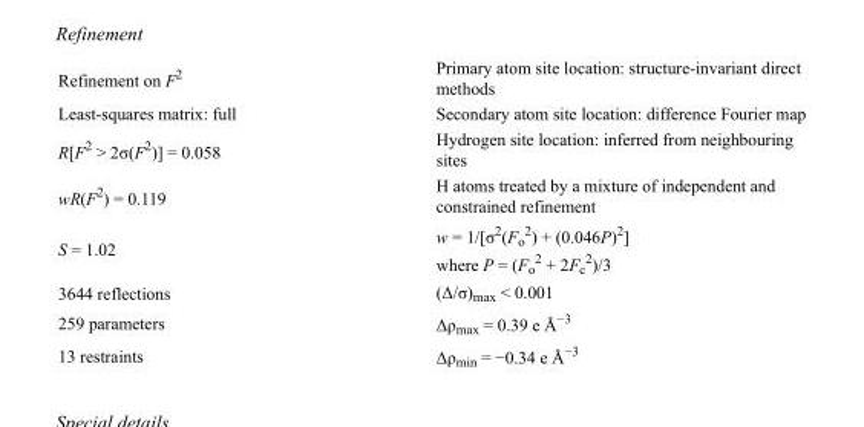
<table><tbody><tr><td>Refinement on F<sup>2</sup></td><td>Primary atom site location: structure-invariant direct methods</td></tr><tr><td>Least-squares matrix: full</td><td>Secondary atom site location: difference Fourier map</td></tr><tr><td>R[F<sup>2</sup> &gt; 2σ(F<sup>2</sup>)] = 0.058</td><td>Hydrogen site location: inferred from neighbouring sites</td></tr><tr><td>wR(F<sup>2</sup>) = 0.119</td><td>H atoms treated by a mixture of independent and constrained refinement</td></tr><tr><td>S = 1.02</td><td>w = 1/[σ<sup>2</sup>(F<sub>o</sub> <sup>2</sup>) + (0.046P)<sup>2</sup>] where P = (F<sub>o</sub> <sup>2</sup> + 2F<sub>c</sub> <sup>2</sup>)/3</td></tr><tr><td>3644 reflections</td><td>(Δ/σ)<sub>max</sub> &lt; 0.001</td></tr><tr><td>259 parameters</td><td>Δρ<sub>max</sub> = 0.39 e Å<sup>−3</sup></td></tr><tr><td>13 restraints</td><td>Δρ<sub>min</sub> = −0.34 e Å<sup>−3</sup></td></tr></tbody></table>